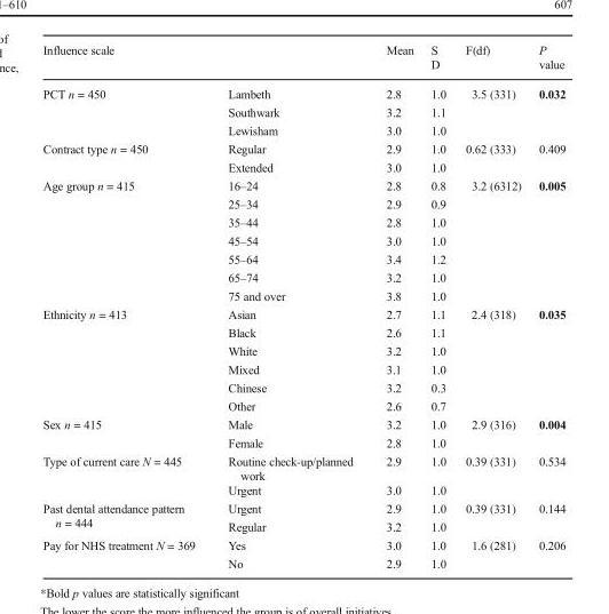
<table><thead><tr><td>Influence scale</td><td></td><td>Mean</td><td>S D</td><td>F(df)</td><td>P value</td></tr></thead><tbody><tr><td rowspan="3">PCT n = 450</td><td>Lambeth</td><td>2.8</td><td>1.0</td><td>3.5 (331)</td><td>0.032</td></tr><tr><td>Southwark</td><td>3.2</td><td>1.1</td><td></td><td></td></tr><tr><td>Lewisham</td><td>3.0</td><td>1.0</td><td></td><td></td></tr><tr><td rowspan="2">Contract type n = 450</td><td>Regular</td><td>2.9</td><td>1.0</td><td>0.62 (333)</td><td>0.409</td></tr><tr><td>Extended</td><td>3.0</td><td>1.0</td><td></td><td></td></tr><tr><td rowspan="7">Age group n = 415</td><td>16–24</td><td>2.8</td><td>0.8</td><td>3.2 (6312)</td><td>0.005</td></tr><tr><td>25–34</td><td>2.9</td><td>0.9</td><td></td><td></td></tr><tr><td>35–44</td><td>2.8</td><td>1.0</td><td></td><td></td></tr><tr><td>45–54</td><td>3.0</td><td>1.0</td><td></td><td></td></tr><tr><td>55–64</td><td>3.4</td><td>1.2</td><td></td><td></td></tr><tr><td>65–74</td><td>3.2</td><td>1.0</td><td></td><td></td></tr><tr><td>75 and over</td><td>3.8</td><td>1.0</td><td></td><td></td></tr><tr><td rowspan="6">Ethnicity n = 413</td><td>Asian</td><td>2.7</td><td>1.1</td><td>2.4 (318)</td><td>0.035</td></tr><tr><td>Black</td><td>2.6</td><td>1.1</td><td></td><td></td></tr><tr><td>White</td><td>3.2</td><td>1.0</td><td></td><td></td></tr><tr><td>Mixed</td><td>3.1</td><td>1.0</td><td></td><td></td></tr><tr><td>Chinese</td><td>3.2</td><td>0.3</td><td></td><td></td></tr><tr><td>Other</td><td>2.6</td><td>0.7</td><td></td><td></td></tr><tr><td rowspan="2">Sex n = 415</td><td>Male</td><td>3.2</td><td>1.0</td><td>2.9 (316)</td><td>0.004</td></tr><tr><td>Female</td><td>2.8</td><td>1.0</td><td></td><td></td></tr><tr><td rowspan="2">Type of current care N = 445</td><td>Routine check-up/planned work</td><td>2.9</td><td>1.0</td><td>0.39 (331)</td><td>0.534</td></tr><tr><td>Urgent</td><td>3.0</td><td>1.0</td><td></td><td></td></tr><tr><td rowspan="2">Past dental attendance pattern n = 444</td><td>Urgent</td><td>2.9</td><td>1.0</td><td>0.39 (331)</td><td>0.144</td></tr><tr><td>Regular</td><td>3.2</td><td>1.0</td><td></td><td></td></tr><tr><td rowspan="2">Pay for NHS treatment N = 369</td><td>Yes</td><td>3.0</td><td>1.0</td><td>1.6 (281)</td><td>0.206</td></tr><tr><td>No</td><td>2.9</td><td>1.0</td><td></td><td></td></tr></tbody></table>